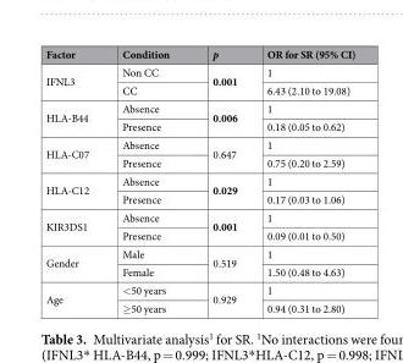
<table><thead><tr><td>Factor</td><td>Condition</td><td>p</td><td>OR for SR (95% CI)</td></tr></thead><tbody><tr><td rowspan="2">IFNL3</td><td>Non CC</td><td rowspan="2">0.001</td><td>1</td></tr><tr><td>CC</td><td>6.43 (2.10 to 19.08)</td></tr><tr><td rowspan="2">HLA-B44</td><td>Absence</td><td rowspan="2">0.006</td><td>1</td></tr><tr><td>Presence</td><td>0.18 (0.05 to 0.62)</td></tr><tr><td rowspan="2">HLA-C07</td><td>Absence</td><td rowspan="2">0.647</td><td>1</td></tr><tr><td>Presence</td><td>0.75 (0.20 to 2.59)</td></tr><tr><td rowspan="2">HLA-C12</td><td>Absence</td><td rowspan="2">0.029</td><td>1</td></tr><tr><td>Presence</td><td>0.17 (0.03 to 1.06)</td></tr><tr><td rowspan="2">KIR3DS1</td><td>Absence</td><td rowspan="2">0.001</td><td>1</td></tr><tr><td>Presence</td><td>0.09 (0.01 to 0.50)</td></tr><tr><td rowspan="2">Gender</td><td>Male</td><td rowspan="2">0.519</td><td>1</td></tr><tr><td>Female</td><td>1.50 (0.48 to 4.63)</td></tr><tr><td rowspan="2">Age</td><td>&lt;50 years</td><td rowspan="2">0.929</td><td>1</td></tr><tr><td>≥50 years</td><td>0.94 (0.31 to 2.80)</td></tr></tbody></table>